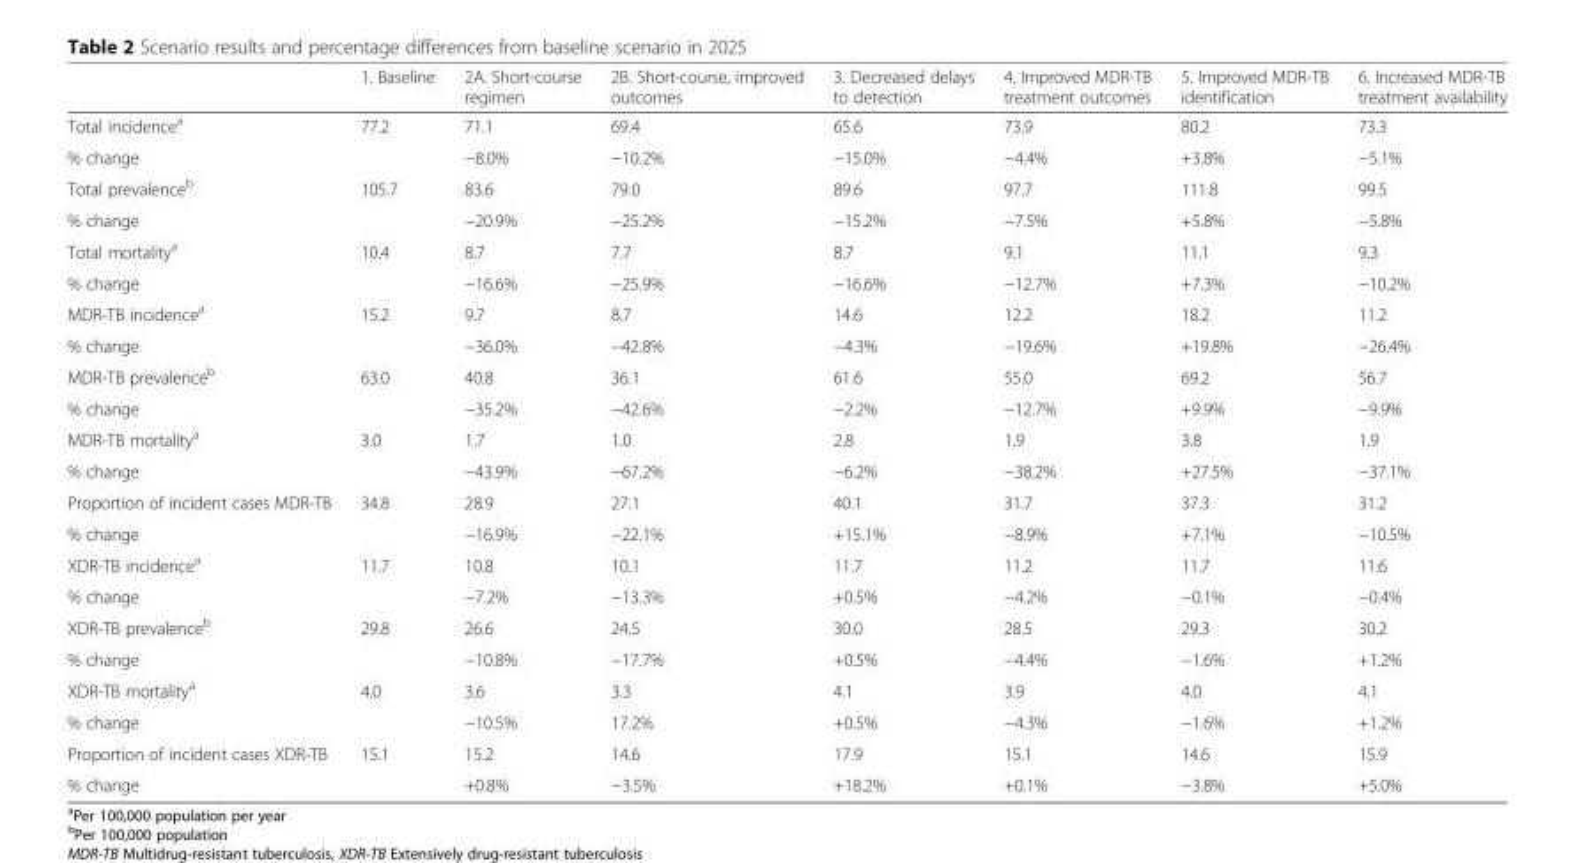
<table><thead><tr><td></td><td>1. Baseline</td><td>2A. Short-course regimen</td><td>2B. Short-course, improved outcomes</td><td>3. Decreased delays to detection</td><td>4. Improved MDR-TB treatment outcomes</td><td>5. Improved MDR-TB identification</td><td>6. Increased MDR-TB treatment availability</td></tr></thead><tbody><tr><td>Total incidence<sup>a</sup></td><td rowspan="2">77.2</td><td>71.1</td><td>69.4</td><td>65.6</td><td>73.9</td><td>80.2</td><td>73.3</td></tr><tr><td>% change</td><td>−8.0%</td><td>−10.2%</td><td>−15.0%</td><td>−4.4%</td><td>+3.8%</td><td>−5.1%</td></tr><tr><td>Total prevalence<sup>b</sup></td><td rowspan="2">105.7</td><td>83.6</td><td>79.0</td><td>89.6</td><td>97.7</td><td>111.8</td><td>99.5</td></tr><tr><td>% change</td><td>−20.9%</td><td>−25.2%</td><td>−15.2%</td><td>−7.5%</td><td>+5.8%</td><td>−5.8%</td></tr><tr><td>Total mortality<sup>a</sup></td><td rowspan="2">10.4</td><td>8.7</td><td>7.7</td><td>8.7</td><td>9.1</td><td>11.1</td><td>9.3</td></tr><tr><td>% change</td><td>−16.6%</td><td>−25.9%</td><td>−16.6%</td><td>−12.7%</td><td>+7.3%</td><td>−10.2%</td></tr><tr><td>MDR-TB incidence<sup>a</sup></td><td rowspan="2">15.2</td><td>9.7</td><td>8.7</td><td>14.6</td><td>12.2</td><td>18.2</td><td>11.2</td></tr><tr><td>% change</td><td>−36.0%</td><td>−42.8%</td><td>−4.3%</td><td>−19.6%</td><td>+19.8%</td><td>−26.4%</td></tr><tr><td>MDR-TB prevalence<sup>b</sup></td><td rowspan="2">63.0</td><td>40.8</td><td>36.1</td><td>61.6</td><td>55.0</td><td>69.2</td><td>56.7</td></tr><tr><td>% change</td><td>−35.2%</td><td>−42.6%</td><td>−2.2%</td><td>−12.7%</td><td>+9.9%</td><td>−9.9%</td></tr><tr><td>MDR-TB mortality<sup>a</sup></td><td rowspan="2">3.0</td><td>1.7</td><td>1.0</td><td>2.8</td><td>1.9</td><td>3.8</td><td>1.9</td></tr><tr><td>% change</td><td>−43.9%</td><td>−67.2%</td><td>−6.2%</td><td>−38.2%</td><td>+27.5%</td><td>−37.1%</td></tr><tr><td>Proportion of incident cases MDR-TB</td><td rowspan="2">34.8</td><td>28.9</td><td>27.1</td><td>40.1</td><td>31.7</td><td>37.3</td><td>31.2</td></tr><tr><td>% change</td><td>−16.9%</td><td>−22.1%</td><td>+15.1%</td><td>−8.9%</td><td>+7.1%</td><td>−10.5%</td></tr><tr><td>XDR-TB incidence<sup>a</sup></td><td rowspan="2">11.7</td><td>10.8</td><td>10.1</td><td>11.7</td><td>11.2</td><td>11.7</td><td>11.6</td></tr><tr><td>% change</td><td>−7.2%</td><td>−13.3%</td><td>+0.5%</td><td>−4.2%</td><td>−0.1%</td><td>−0.4%</td></tr><tr><td>XDR-TB prevalence<sup>b</sup></td><td rowspan="2">29.8</td><td>26.6</td><td>24.5</td><td>30.0</td><td>28.5</td><td>29.3</td><td>30.2</td></tr><tr><td>% change</td><td>−10.8%</td><td>−17.7%</td><td>+0.5%</td><td>−4.4%</td><td>−1.6%</td><td>+1.2%</td></tr><tr><td>XDR-TB mortality<sup>a</sup></td><td rowspan="2">4.0</td><td>3.6</td><td>3.3</td><td>4.1</td><td>3.9</td><td>4.0</td><td>4.1</td></tr><tr><td>% change</td><td>−10.5%</td><td>17.2%</td><td>+0.5%</td><td>−4.3%</td><td>−1.6%</td><td>+1.2%</td></tr><tr><td>Proportion of incident cases XDR-TB</td><td rowspan="2">15.1</td><td>15.2</td><td>14.6</td><td>17.9</td><td>15.1</td><td>14.6</td><td>15.9</td></tr><tr><td>% change</td><td>+0.8%</td><td>−3.5%</td><td>+18.2%</td><td>+0.1%</td><td>−3.8%</td><td>+5.0%</td></tr></tbody></table>